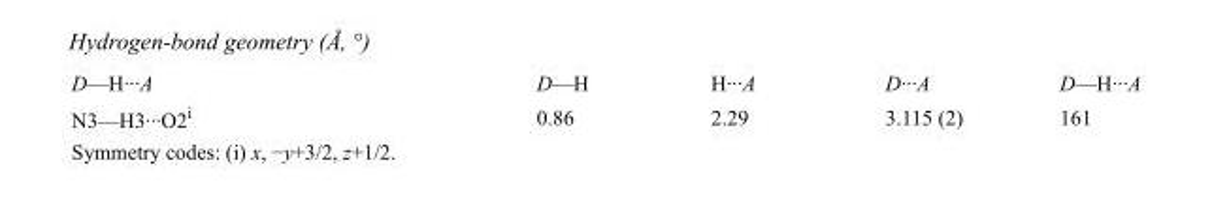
<table><tbody><tr><td>D—H···A</td><td>D—H</td><td>H···A</td><td>D···A</td><td>D—H···A</td></tr><tr><td>N3—H3···O2<sup>i</sup></td><td>0.86</td><td>2.29</td><td>3.115 (2)</td><td>161</td></tr></tbody></table>